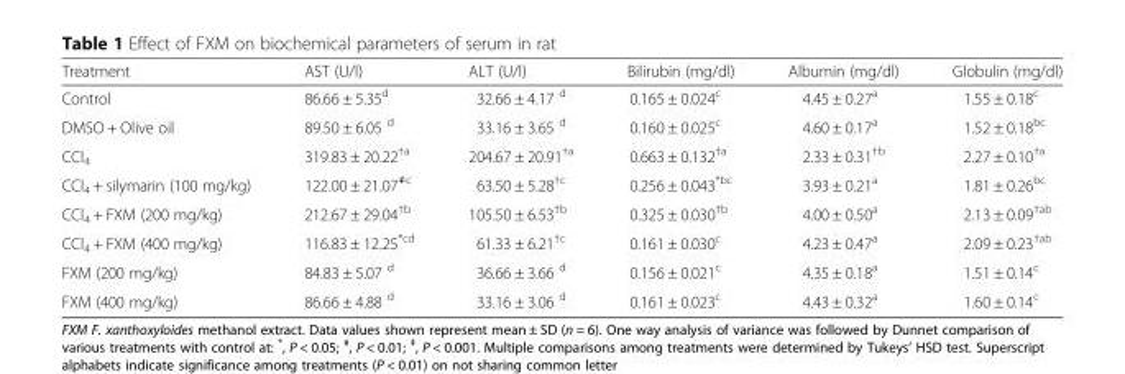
<table><thead><tr><td>Treatment</td><td>AST (U/l)</td><td>ALT (U/l)</td><td>Bilirubin (mg/dl)</td><td>Albumin (mg/dl)</td><td>Globulin (mg/dl)</td></tr></thead><tbody><tr><td>Control</td><td>86.66 ± 5.35<sup>d</sup></td><td>32.66 ± 4.17 <sup>d</sup></td><td>0.165 ± 0.024<sup>c</sup></td><td>4.45 ± 0.27<sup>a</sup></td><td>1.55 ± 0.18<sup>c</sup></td></tr><tr><td>DMSO + Olive oil</td><td>89.50 ± 6.05 <sup>d</sup></td><td>33.16 ± 3.65 <sup>d</sup></td><td>0.160 ± 0.025<sup>c</sup></td><td>4.60 ± 0.17<sup>a</sup></td><td>1.52 ± 0.18<sup>bc</sup></td></tr><tr><td>CCl<sub>4</sub></td><td>319.83 ± 20.22<sup>†a</sup></td><td>204.67 ± 20.91<sup>†a</sup></td><td>0.663 ± 0.132<sup>†a</sup></td><td>2.33 ± 0.31<sup>†b</sup></td><td>2.27 ± 0.10<sup>†a</sup></td></tr><tr><td>CCl<sub>4</sub> + silymarin (100 mg/kg)</td><td>122.00 ± 21.07<sup>≠c</sup></td><td>63.50 ± 5.28<sup>†c</sup></td><td>0.256 ± 0.043<sup>*bc</sup></td><td>3.93 ± 0.21<sup>a</sup></td><td>1.81 ± 0.26<sup>bc</sup></td></tr><tr><td>CCl<sub>4</sub> + FXM (200 mg/kg)</td><td>212.67 ± 29.04<sup>†b</sup></td><td>105.50 ± 6.53<sup>†b</sup></td><td>0.325 ± 0.030<sup>†b</sup></td><td>4.00 ± 0.50<sup>a</sup></td><td>2.13 ± 0.09<sup>†ab</sup></td></tr><tr><td>CCl<sub>4</sub> + FXM (400 mg/kg)</td><td>116.83 ± 12.25<sup>*cd</sup></td><td>61.33 ± 6.21<sup>†c</sup></td><td>0.161 ± 0.030<sup>c</sup></td><td>4.23 ± 0.47<sup>a</sup></td><td>2.09 ± 0.23<sup>†ab</sup></td></tr><tr><td>FXM (200 mg/kg)</td><td>84.83 ± 5.07 <sup>d</sup></td><td>36.66 ± 3.66 <sup>d</sup></td><td>0.156 ± 0.021<sup>c</sup></td><td>4.35 ± 0.18<sup>a</sup></td><td>1.51 ± 0.14<sup>c</sup></td></tr><tr><td>FXM (400 mg/kg)</td><td>86.66 ± 4.88 <sup>d</sup></td><td>33.16 ± 3.06 <sup>d</sup></td><td>0.161 ± 0.023<sup>c</sup></td><td>4.43 ± 0.32<sup>a</sup></td><td>1.60 ± 0.14<sup>c</sup></td></tr></tbody></table>